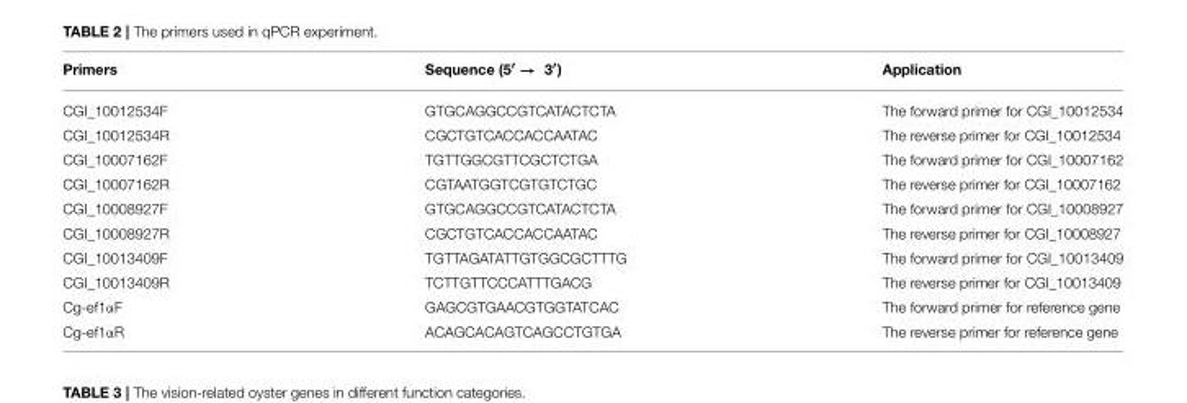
<table><thead><tr><td>Primers</td><td>Sequence (5′ → 3′)</td><td>Application</td></tr></thead><tbody><tr><td>CGI_10012534F</td><td>GTGCAGGCCGTCATACTCTA</td><td>The forward primer for CGI_10012534</td></tr><tr><td>CGI_10012534R</td><td>CGCTGTCACCACCAATAC</td><td>The reverse primer for CGI_10012534</td></tr><tr><td>CGI_10007162F</td><td>TGTTGGCGTTCGCTCTGA</td><td>The forward primer for CGI_10007162</td></tr><tr><td>CGI_10007162R</td><td>CGTAATGGTCGTGTCTGC</td><td>The reverse primer for CGI_10007162</td></tr><tr><td>CGI_10008927F</td><td>GTGCAGGCCGTCATACTCTA</td><td>The forward primer for CGI_10008927</td></tr><tr><td>CGI_10008927R</td><td>CGCTGTCACCACCAATAC</td><td>The reverse primer for CGI_10008927</td></tr><tr><td>CGI_10013409F</td><td>TGTTAGATATTGTGGCGCTTTG</td><td>The forward primer for CGI_10013409</td></tr><tr><td>CGI_10013409R</td><td>TCTTGTTCCCATTTGACG</td><td>The reverse primer for CGI_10013409</td></tr><tr><td>Cg-ef1αF</td><td>GAGCGTGAACGTGGTATCAC</td><td>The forward primer for reference gene</td></tr><tr><td>Cg-ef1αR</td><td>ACAGCACAGTCAGCCTGTGA</td><td>The reverse primer for reference gene</td></tr></tbody></table>